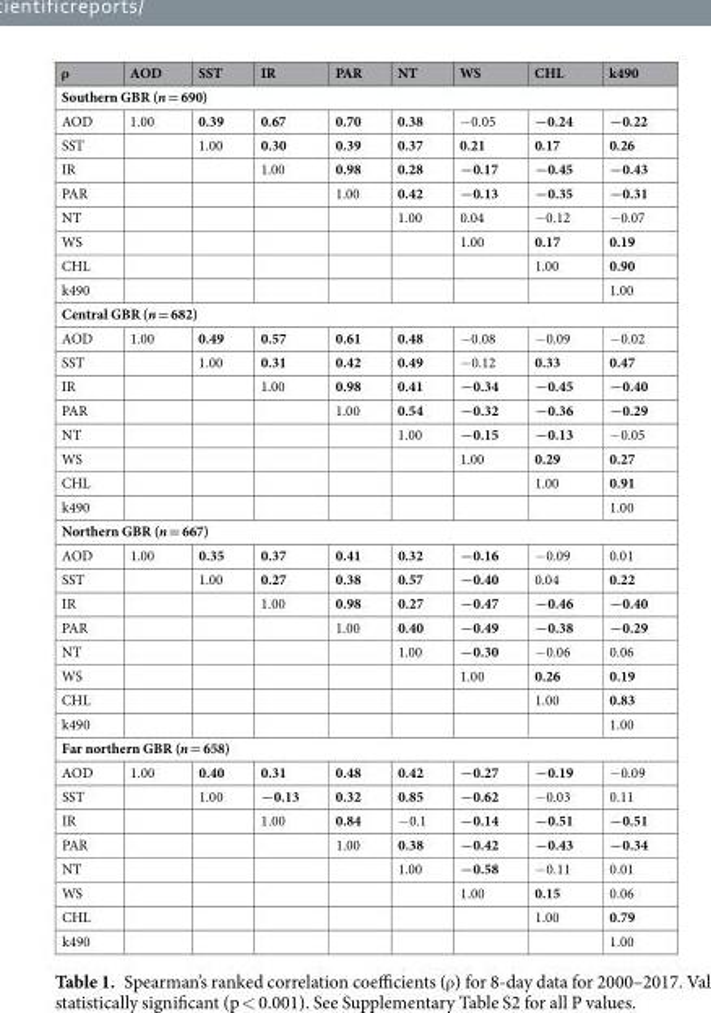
<table><thead><tr><td>ρ</td><td>AOD</td><td>SST</td><td>IR</td><td>PAR</td><td>NT</td><td>WS</td><td>CHL</td><td>k490</td></tr></thead><tbody><tr><td colspan="9">Southern GBR (n = 690)</td></tr><tr><td>AOD</td><td>1.00</td><td>0.39</td><td>0.67</td><td>0.70</td><td>0.38</td><td>−0.05</td><td>−0.24</td><td>−0.22</td></tr><tr><td>SST</td><td></td><td>1.00</td><td>0.30</td><td>0.39</td><td>0.37</td><td>0.21</td><td>0.17</td><td>0.26</td></tr><tr><td>IR</td><td></td><td></td><td>1.00</td><td>0.98</td><td>0.28</td><td>−0.17</td><td>−0.45</td><td>−0.43</td></tr><tr><td>PAR</td><td></td><td></td><td></td><td>1.00</td><td>0.42</td><td>−0.13</td><td>−0.35</td><td>−0.31</td></tr><tr><td>NT</td><td></td><td></td><td></td><td></td><td>1.00</td><td>0.04</td><td>−0.12</td><td>−0.07</td></tr><tr><td>WS</td><td></td><td></td><td></td><td></td><td></td><td>1.00</td><td>0.17</td><td>0.19</td></tr><tr><td>CHL</td><td></td><td></td><td></td><td></td><td></td><td></td><td>1.00</td><td>0.90</td></tr><tr><td>k490</td><td></td><td></td><td></td><td></td><td></td><td></td><td></td><td>1.00</td></tr><tr><td colspan="9">Central GBR (n = 682)</td></tr><tr><td>AOD</td><td>1.00</td><td>0.49</td><td>0.57</td><td>0.61</td><td>0.48</td><td>−0.08</td><td>−0.09</td><td>−0.02</td></tr><tr><td>SST</td><td></td><td>1.00</td><td>0.31</td><td>0.42</td><td>0.49</td><td>−0.12</td><td>0.33</td><td>0.47</td></tr><tr><td>IR</td><td></td><td></td><td>1.00</td><td>0.98</td><td>0.41</td><td>−0.34</td><td>−0.45</td><td>−0.40</td></tr><tr><td>PAR</td><td></td><td></td><td></td><td>1.00</td><td>0.54</td><td>−0.32</td><td>−0.36</td><td>−0.29</td></tr><tr><td>NT</td><td></td><td></td><td></td><td></td><td>1.00</td><td>−0.15</td><td>−0.13</td><td>−0.05</td></tr><tr><td>WS</td><td></td><td></td><td></td><td></td><td></td><td>1.00</td><td>0.29</td><td>0.27</td></tr><tr><td>CHL</td><td></td><td></td><td></td><td></td><td></td><td></td><td>1.00</td><td>0.91</td></tr><tr><td>k490</td><td></td><td></td><td></td><td></td><td></td><td></td><td></td><td>1.00</td></tr><tr><td colspan="9">Northern GBR (n = 667)</td></tr><tr><td>AOD</td><td>1.00</td><td>0.35</td><td>0.37</td><td>0.41</td><td>0.32</td><td>−0.16</td><td>−0.09</td><td>0.01</td></tr><tr><td>SST</td><td></td><td>1.00</td><td>0.27</td><td>0.38</td><td>0.57</td><td>−0.40</td><td>0.04</td><td>0.22</td></tr><tr><td>IR</td><td></td><td></td><td>1.00</td><td>0.98</td><td>0.27</td><td>−0.47</td><td>−0.46</td><td>−0.40</td></tr><tr><td>PAR</td><td></td><td></td><td></td><td>1.00</td><td>0.40</td><td>−0.49</td><td>−0.38</td><td>−0.29</td></tr><tr><td>NT</td><td></td><td></td><td></td><td></td><td>1.00</td><td>−0.30</td><td>−0.06</td><td>0.06</td></tr><tr><td>WS</td><td></td><td></td><td></td><td></td><td></td><td>1.00</td><td>0.26</td><td>0.19</td></tr><tr><td>CHL</td><td></td><td></td><td></td><td></td><td></td><td></td><td>1.00</td><td>0.83</td></tr><tr><td>k490</td><td></td><td></td><td></td><td></td><td></td><td></td><td></td><td>1.00</td></tr><tr><td colspan="9">Far northern GBR (n = 658)</td></tr><tr><td>AOD</td><td>1.00</td><td>0.40</td><td>0.31</td><td>0.48</td><td>0.42</td><td>−0.27</td><td>−0.19</td><td>−0.09</td></tr><tr><td>SST</td><td></td><td>1.00</td><td>−0.13</td><td>0.32</td><td>0.85</td><td>−0.62</td><td>−0.03</td><td>0.11</td></tr><tr><td>IR</td><td></td><td></td><td>1.00</td><td>0.84</td><td>−0.1</td><td>−0.14</td><td>−0.51</td><td>−0.51</td></tr><tr><td>PAR</td><td></td><td></td><td></td><td>1.00</td><td>0.38</td><td>−0.42</td><td>−0.43</td><td>−0.34</td></tr><tr><td>NT</td><td></td><td></td><td></td><td></td><td>1.00</td><td>−0.58</td><td>−0.11</td><td>0.01</td></tr><tr><td>WS</td><td></td><td></td><td></td><td></td><td></td><td>1.00</td><td>0.15</td><td>0.06</td></tr><tr><td>CHL</td><td></td><td></td><td></td><td></td><td></td><td></td><td>1.00</td><td>0.79</td></tr><tr><td>k490</td><td></td><td></td><td></td><td></td><td></td><td></td><td></td><td>1.00</td></tr></tbody></table>